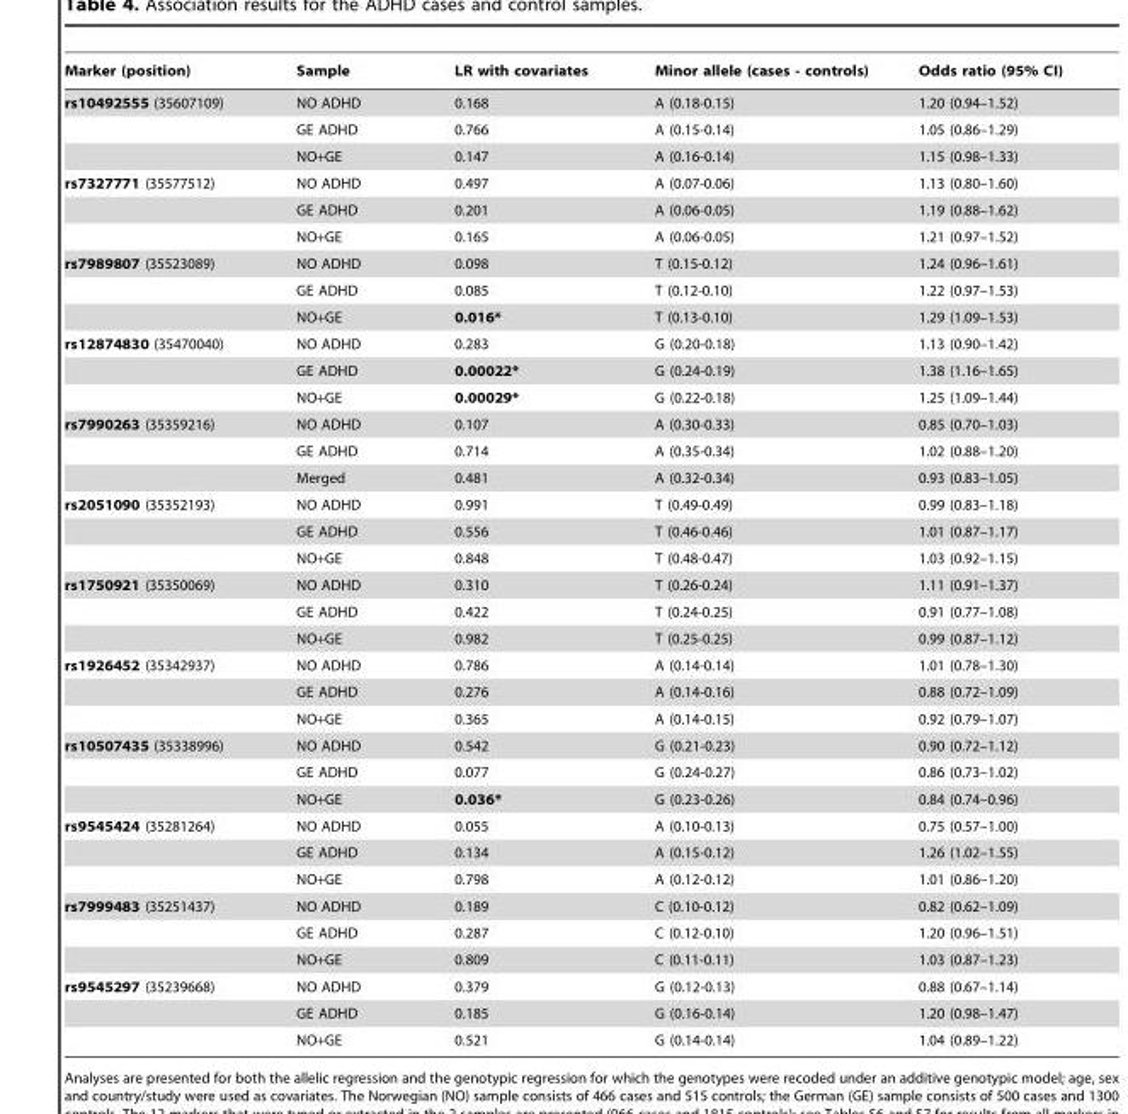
<table><thead><tr><td>Marker (position)</td><td>Sample</td><td>LR with covariates</td><td>Minor allele (cases - controls)</td><td>Odds ratio (95% CI)</td></tr></thead><tbody><tr><td rowspan="3">rs10492555 (35607109)</td><td>NO ADHD</td><td>0.168</td><td>A (0.18-0.15)</td><td>1.20 (0.94–1.52)</td></tr><tr><td>GE ADHD</td><td>0.766</td><td>A (0.15-0.14)</td><td>1.05 (0.86–1.29)</td></tr><tr><td>NO+GE</td><td>0.147</td><td>A (0.16-0.14)</td><td>1.15 (0.98–1.33)</td></tr><tr><td rowspan="3">rs7327771 (35577512)</td><td>NO ADHD</td><td>0.497</td><td>A (0.07-0.06)</td><td>1.13 (0.80–1.60)</td></tr><tr><td>GE ADHD</td><td>0.201</td><td>A (0.06-0.05)</td><td>1.19 (0.88–1.62)</td></tr><tr><td>NO+GE</td><td>0.165</td><td>A (0.06-0.05)</td><td>1.21 (0.97–1.52)</td></tr><tr><td rowspan="3">rs7989807 (35523089)</td><td>NO ADHD</td><td>0.098</td><td>T (0.15-0.12)</td><td>1.24 (0.96–1.61)</td></tr><tr><td>GE ADHD</td><td>0.085</td><td>T (0.12-0.10)</td><td>1.22 (0.97–1.53)</td></tr><tr><td>NO+GE</td><td>0.016*</td><td>T (0.13-0.10)</td><td>1.29 (1.09–1.53)</td></tr><tr><td rowspan="3">rs12874830 (35470040)</td><td>NO ADHD</td><td>0.283</td><td>G (0.20-0.18)</td><td>1.13 (0.90–1.42)</td></tr><tr><td>GE ADHD</td><td>0.00022*</td><td>G (0.24-0.19)</td><td>1.38 (1.16–1.65)</td></tr><tr><td>NO+GE</td><td>0.00029*</td><td>G (0.22-0.18)</td><td>1.25 (1.09–1.44)</td></tr><tr><td rowspan="3">rs7990263 (35359216)</td><td>NO ADHD</td><td>0.107</td><td>A (0.30-0.33)</td><td>0.85 (0.70–1.03)</td></tr><tr><td>GE ADHD</td><td>0.714</td><td>A (0.35-0.34)</td><td>1.02 (0.88–1.20)</td></tr><tr><td>Merged</td><td>0.481</td><td>A (0.32-0.34)</td><td>0.93 (0.83–1.05)</td></tr><tr><td rowspan="3">rs2051090 (35352193)</td><td>NO ADHD</td><td>0.991</td><td>T (0.49-0.49)</td><td>0.99 (0.83–1.18)</td></tr><tr><td>GE ADHD</td><td>0.556</td><td>T (0.46-0.46)</td><td>1.01 (0.87–1.17)</td></tr><tr><td>NO+GE</td><td>0.848</td><td>T (0.48-0.47)</td><td>1.03 (0.92–1.15)</td></tr><tr><td rowspan="3">rs1750921 (35350069)</td><td>NO ADHD</td><td>0.310</td><td>T (0.26-0.24)</td><td>1.11 (0.91–1.37)</td></tr><tr><td>GE ADHD</td><td>0.422</td><td>T (0.24-0.25)</td><td>0.91 (0.77–1.08)</td></tr><tr><td>NO+GE</td><td>0.982</td><td>T (0.25-0.25)</td><td>0.99 (0.87–1.12)</td></tr><tr><td rowspan="3">rs1926452 (35342937)</td><td>NO ADHD</td><td>0.786</td><td>A (0.14-0.14)</td><td>1.01 (0.78–1.30)</td></tr><tr><td>GE ADHD</td><td>0.276</td><td>A (0.14-0.16)</td><td>0.88 (0.72–1.09)</td></tr><tr><td>NO+GE</td><td>0.365</td><td>A (0.14-0.15)</td><td>0.92 (0.79–1.07)</td></tr><tr><td rowspan="3">rs10507435 (35338996)</td><td>NO ADHD</td><td>0.542</td><td>G (0.21-0.23)</td><td>0.90 (0.72–1.12)</td></tr><tr><td>GE ADHD</td><td>0.077</td><td>G (0.24-0.27)</td><td>0.86 (0.73–1.02)</td></tr><tr><td>NO+GE</td><td>0.036*</td><td>G (0.23-0.26)</td><td>0.84 (0.74–0.96)</td></tr><tr><td rowspan="3">rs9545424 (35281264)</td><td>NO ADHD</td><td>0.055</td><td>A (0.10-0.13)</td><td>0.75 (0.57–1.00)</td></tr><tr><td>GE ADHD</td><td>0.134</td><td>A (0.15-0.12)</td><td>1.26 (1.02–1.55)</td></tr><tr><td>NO+GE</td><td>0.798</td><td>A (0.12-0.12)</td><td>1.01 (0.86–1.20)</td></tr><tr><td rowspan="3">rs7999483 (35251437)</td><td>NO ADHD</td><td>0.189</td><td>C (0.10-0.12)</td><td>0.82 (0.62–1.09)</td></tr><tr><td>GE ADHD</td><td>0.287</td><td>C (0.12-0.10)</td><td>1.20 (0.96–1.51)</td></tr><tr><td>NO+GE</td><td>0.809</td><td>C (0.11-0.11)</td><td>1.03 (0.87–1.23)</td></tr><tr><td rowspan="3">rs9545297 (35239668)</td><td>NO ADHD</td><td>0.379</td><td>G (0.12-0.13)</td><td>0.88 (0.67–1.14)</td></tr><tr><td>GE ADHD</td><td>0.185</td><td>G (0.16-0.14)</td><td>1.20 (0.98–1.47)</td></tr><tr><td>NO+GE</td><td>0.521</td><td>G (0.14-0.14)</td><td>1.04 (0.89–1.22)</td></tr></tbody></table>